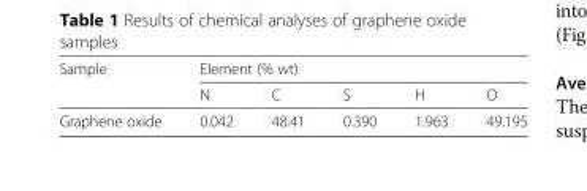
<table><thead><tr><td rowspan="2">Sample</td><td colspan="5">Element (% wt)</td></tr><tr><td>N</td><td>C</td><td>S</td><td>H</td><td>O</td></tr></thead><tbody><tr><td>Graphene oxide</td><td>0.042</td><td>48.41</td><td>0.390</td><td>1.963</td><td>49.195</td></tr></tbody></table>